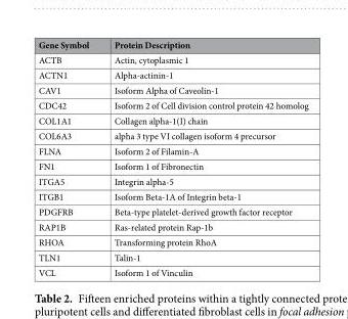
<table><thead><tr><td>Gene Symbol</td><td>Protein Description</td></tr></thead><tbody><tr><td>ACTB</td><td>Actin, cytoplasmic 1</td></tr><tr><td>ACTN1</td><td>Alpha-actinin-1</td></tr><tr><td>CAV1</td><td>Isoform Alpha of Caveolin-1</td></tr><tr><td>CDC42</td><td>Isoform 2 of Cell division control protein 42 homolog</td></tr><tr><td>COL1A1</td><td>Collagen alpha-1(I) chain</td></tr><tr><td>COL6A3</td><td>alpha 3 type VI collagen isoform 4 precursor</td></tr><tr><td>FLNA</td><td>Isoform 2 of Filamin-A</td></tr><tr><td>FN1</td><td>Isoform 1 of Fibronectin</td></tr><tr><td>ITGA5</td><td>Integrin alpha-5</td></tr><tr><td>ITGB1</td><td>Isoform Beta-1A of Integrin beta-1</td></tr><tr><td>PDGFRB</td><td>Beta-type platelet-derived growth factor receptor</td></tr><tr><td>RAP1B</td><td>Ras-related protein Rap-1b</td></tr><tr><td>RHOA</td><td>Transforming protein RhoA</td></tr><tr><td>TLN1</td><td>Talin-1</td></tr><tr><td>VCL</td><td>Isoform 1 of Vinculin</td></tr></tbody></table>